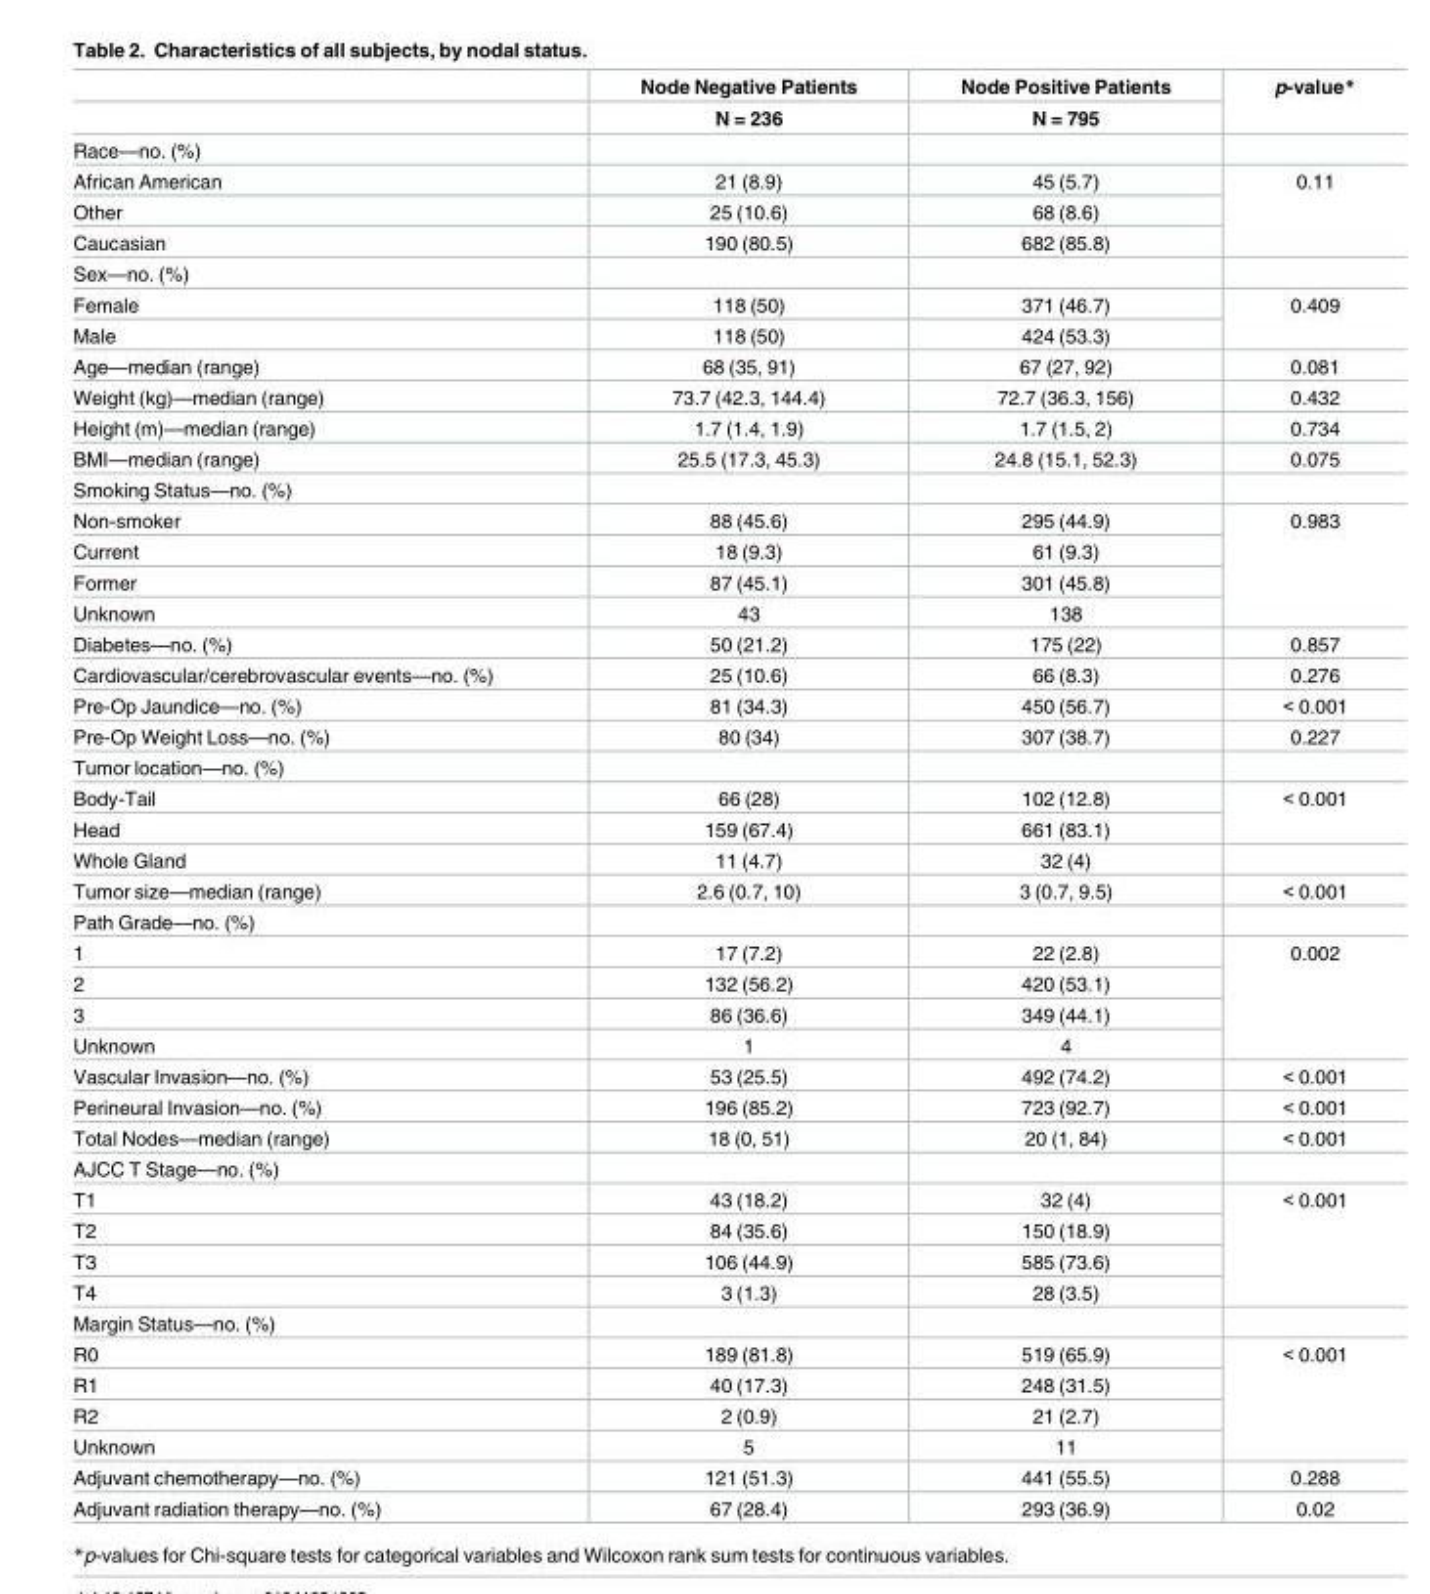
<table><thead><tr><td rowspan="2"></td><td rowspan="2">Node Negative Patients N = 236</td><td rowspan="2">Node Positive Patients N = 795</td><td rowspan="2">p-value*</td></tr><tr></tr></thead><tbody><tr><td colspan="4">Race—no. (%)</td></tr><tr><td>African American</td><td>21 (8.9)</td><td>45 (5.7)</td><td rowspan="3">0.11</td></tr><tr><td>Other</td><td>25 (10.6)</td><td>68 (8.6)</td></tr><tr><td>Caucasian</td><td>190 (80.5)</td><td>682 (85.8)</td></tr><tr><td colspan="4">Sex—no. (%)</td></tr><tr><td>Female</td><td>118 (50)</td><td>371 (46.7)</td><td rowspan="2">0.409</td></tr><tr><td>Male</td><td>118 (50)</td><td>424 (53.3)</td></tr><tr><td>Age—median (range)</td><td>68 (35, 91)</td><td>67 (27, 92)</td><td>0.081</td></tr><tr><td>Weight (kg)—median (range)</td><td>73.7 (42.3, 144.4)</td><td>72.7 (36.3, 156)</td><td>0.432</td></tr><tr><td>Height (m)—median (range)</td><td>1.7 (1.4, 1.9)</td><td>1.7 (1.5, 2)</td><td>0.734</td></tr><tr><td>BMI—median (range)</td><td>25.5 (17.3, 45.3)</td><td>24.8 (15.1, 52.3)</td><td>0.075</td></tr><tr><td colspan="4">Smoking Status—no. (%)</td></tr><tr><td>Non-smoker</td><td>88 (45.6)</td><td>295 (44.9)</td><td rowspan="4">0.983</td></tr><tr><td>Current</td><td>18 (9.3)</td><td>61 (9.3)</td></tr><tr><td>Former</td><td>87 (45.1)</td><td>301 (45.8)</td></tr><tr><td>Unknown</td><td>43</td><td>138</td></tr><tr><td>Diabetes—no. (%)</td><td>50 (21.2)</td><td>175 (22)</td><td>0.857</td></tr><tr><td>Cardiovascular/cerebrovascular events—no. (%)</td><td>25 (10.6)</td><td>66 (8.3)</td><td>0.276</td></tr><tr><td>Pre-Op Jaundice—no. (%)</td><td>81 (34.3)</td><td>450 (56.7)</td><td>&lt; 0.001</td></tr><tr><td>Pre-Op Weight Loss—no. (%)</td><td>80 (34)</td><td>307 (38.7)</td><td>0.227</td></tr><tr><td colspan="4">Tumor location—no. (%)</td></tr><tr><td>Body-Tail</td><td>66 (28)</td><td>102 (12.8)</td><td rowspan="2">&lt; 0.001</td></tr><tr><td>Head</td><td>159 (67.4)</td><td>661 (83.1)</td></tr><tr><td>Whole Gland</td><td>11 (4.7)</td><td>32 (4)</td><td></td></tr><tr><td>Tumor size—median (range)</td><td>2.6 (0.7, 10)</td><td>3 (0.7, 9.5)</td><td>&lt; 0.001</td></tr><tr><td colspan="4">Path Grade—no. (%)</td></tr><tr><td>1</td><td>17 (7.2)</td><td>22 (2.8)</td><td rowspan="4">0.002</td></tr><tr><td>2</td><td>132 (56.2)</td><td>420 (53.1)</td></tr><tr><td>3</td><td>86 (36.6)</td><td>349 (44.1)</td></tr><tr><td>Unknown</td><td>1</td><td>4</td></tr><tr><td>Vascular Invasion—no. (%)</td><td>53 (25.5)</td><td>492 (74.2)</td><td>&lt; 0.001</td></tr><tr><td>Perineural Invasion—no. (%)</td><td>196 (85.2)</td><td>723 (92.7)</td><td>&lt; 0.001</td></tr><tr><td>Total Nodes—median (range)</td><td>18 (0, 51)</td><td>20 (1, 84)</td><td>&lt; 0.001</td></tr><tr><td colspan="4">AJCC T Stage—no. (%)</td></tr><tr><td>T1</td><td>43 (18.2)</td><td>32 (4)</td><td rowspan="4">&lt; 0.001</td></tr><tr><td>T2</td><td>84 (35.6)</td><td>150 (18.9)</td></tr><tr><td>T3</td><td>106 (44.9)</td><td>585 (73.6)</td></tr><tr><td>T4</td><td>3 (1.3)</td><td>28 (3.5)</td></tr><tr><td colspan="4">Margin Status—no. (%)</td></tr><tr><td>R0</td><td>189 (81.8)</td><td>519 (65.9)</td><td rowspan="4">&lt; 0.001</td></tr><tr><td>R1</td><td>40 (17.3)</td><td>248 (31.5)</td></tr><tr><td>R2</td><td>2 (0.9)</td><td>21 (2.7)</td></tr><tr><td>Unknown</td><td>5</td><td>11</td></tr><tr><td>Adjuvant chemotherapy—no. (%)</td><td>121 (51.3)</td><td>441 (55.5)</td><td>0.288</td></tr><tr><td>Adjuvant radiation therapy—no. (%)</td><td>67 (28.4)</td><td>293 (36.9)</td><td>0.02</td></tr></tbody></table>